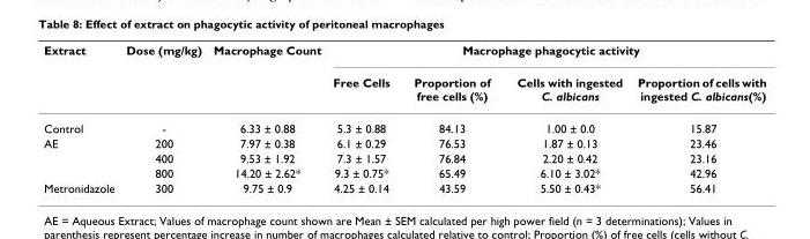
<table><thead><tr><td rowspan="2">Extract</td><td rowspan="2">Dose (mg/kg)</td><td rowspan="2">Macrophage Count</td><td colspan="4">Macrophage phagocytic activity</td></tr><tr><td>Free Cells</td><td>Proportion of free cells (%)</td><td>Cells with ingested C. albicans</td><td>Proportion of cells with ingested C. albicans(%)</td></tr></thead><tbody><tr><td>Control</td><td>-</td><td>6.33 ± 0.88</td><td>5.3 ± 0.88</td><td>84.13</td><td>1.00 ± 0.0</td><td>15.87</td></tr><tr><td rowspan="3">AE</td><td>200</td><td>7.97 ± 0.38</td><td>6.1 ± 0.29</td><td>76.53</td><td>1.87 ± 0.13</td><td>23.46</td></tr><tr><td>400</td><td>9.53 ± 1.92</td><td>7.3 ± 1.57</td><td>76.84</td><td>2.20 ± 0.42</td><td>23.16</td></tr><tr><td>800</td><td>14.20 ± 2.62*</td><td>9.3 ± 0.75*</td><td>65.49</td><td>6.10 ± 3.02*</td><td>42.96</td></tr><tr><td>Metronidazole</td><td>300</td><td>9.75 ± 0.9</td><td>4.25 ± 0.14</td><td>43.59</td><td>5.50 ± 0.43*</td><td>56.41</td></tr></tbody></table>